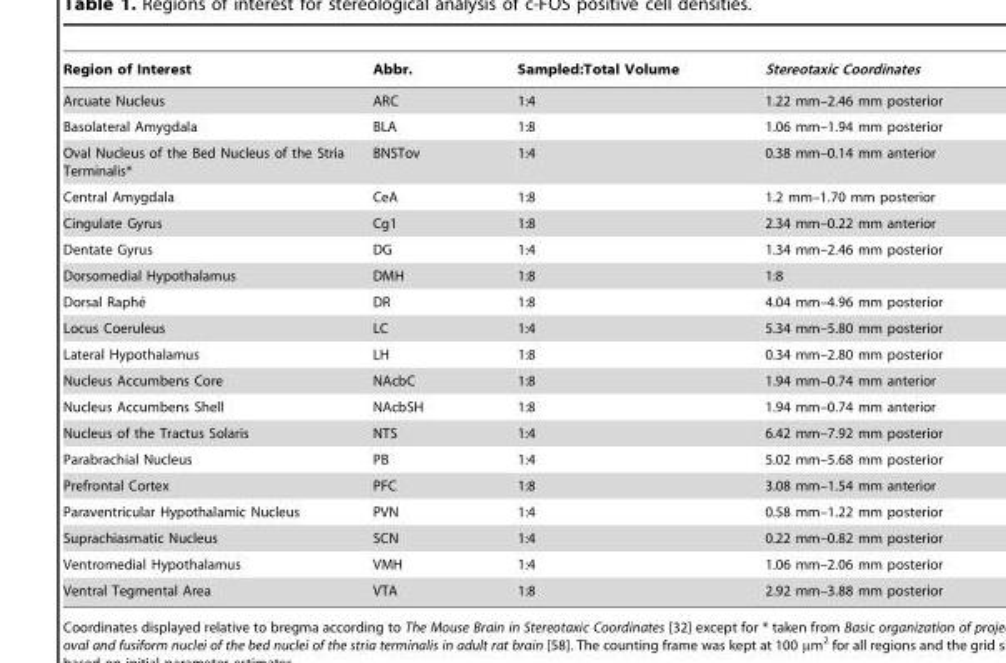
<table><thead><tr><td>Region of Interest</td><td>Abbr.</td><td>Sampled:Total Volume</td><td>Stereotaxic Coordinates</td></tr></thead><tbody><tr><td>Arcuate Nucleus</td><td>ARC</td><td>1:4</td><td>1.22 mm–2.46 mm posterior</td></tr><tr><td>Basolateral Amygdala</td><td>BLA</td><td>1:8</td><td>1.06 mm–1.94 mm posterior</td></tr><tr><td>Oval Nucleus of the Bed Nucleus of the Stria Terminalis*</td><td>BNSTov</td><td>1:4</td><td>0.38 mm–0.14 mm anterior</td></tr><tr><td>Central Amygdala</td><td>CeA</td><td>1:8</td><td>1.2 mm–1.70 mm posterior</td></tr><tr><td>Cingulate Gyrus</td><td>Cg1</td><td>1:8</td><td>2.34 mm–0.22 mm anterior</td></tr><tr><td>Dentate Gyrus</td><td>DG</td><td>1:4</td><td>1.34 mm–2.46 mm posterior</td></tr><tr><td>Dorsomedial Hypothalamus</td><td>DMH</td><td>1:8</td><td>1:8</td></tr><tr><td>Dorsal Raphe´</td><td>DR</td><td>1:8</td><td>4.04 mm–4.96 mm posterior</td></tr><tr><td>Locus Coeruleus</td><td>LC</td><td>1:4</td><td>5.34 mm–5.80 mm posterior</td></tr><tr><td>Lateral Hypothalamus</td><td>LH</td><td>1:8</td><td>0.34 mm–2.80 mm posterior</td></tr><tr><td>Nucleus Accumbens Core</td><td>NAcbC</td><td>1:8</td><td>1.94 mm–0.74 mm anterior</td></tr><tr><td>Nucleus Accumbens Shell</td><td>NAcbSH</td><td>1:8</td><td>1.94 mm–0.74 mm anterior</td></tr><tr><td>Nucleus of the Tractus Solaris</td><td>NTS</td><td>1:4</td><td>6.42 mm–7.92 mm posterior</td></tr><tr><td>Parabrachial Nucleus</td><td>PB</td><td>1:4</td><td>5.02 mm–5.68 mm posterior</td></tr><tr><td>Prefrontal Cortex</td><td>PFC</td><td>1:8</td><td>3.08 mm–1.54 mm anterior</td></tr><tr><td>Paraventricular Hypothalamic Nucleus</td><td>PVN</td><td>1:4</td><td>0.58 mm–1.22 mm posterior</td></tr><tr><td>Suprachiasmatic Nucleus</td><td>SCN</td><td>1:4</td><td>0.22 mm–0.82 mm posterior</td></tr><tr><td>Ventromedial Hypothalamus</td><td>VMH</td><td>1:4</td><td>1.06 mm–2.06 mm posterior</td></tr><tr><td>Ventral Tegmental Area</td><td>VTA</td><td>1:8</td><td>2.92 mm–3.88 mm posterior</td></tr></tbody></table>